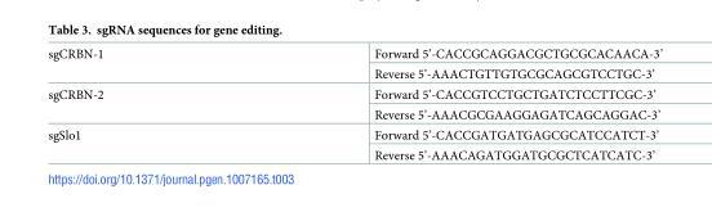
<table><tbody><tr><td rowspan="2">sgCRBN-1</td><td>Forward 5’-CACCGCAGGACGCTGCGCACAACA-3’</td></tr><tr><td>Reverse 5’-AAACTGTTGTGCGCAGCGTCCTGC-3’</td></tr><tr><td rowspan="2">sgCRBN-2</td><td>Forward 5’-CACCGTCCTGCTGATCTCCTTCGC-3’</td></tr><tr><td>Reverse 5’-AAACGCGAAGGAGATCAGCAGGAC-3’</td></tr><tr><td rowspan="2">sgSlo1</td><td>Forward 5’-CACCGATGATGAGCGCATCCATCT-3’</td></tr><tr><td>Reverse 5’-AAACAGATGGATGCGCTCATCATC-3’</td></tr></tbody></table>